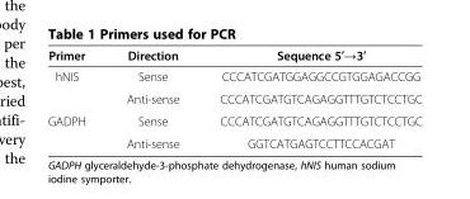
<table><thead><tr><td>Primer</td><td>Direction</td><td>Sequence 5′→3′</td></tr></thead><tbody><tr><td rowspan="2">hNIS</td><td>Sense</td><td>CCCATCGATGGAGGCCGTGGAGACCGG</td></tr><tr><td>Anti-sense</td><td>CCCATCGATGTCAGAGGTTTGTCTCCTGC</td></tr><tr><td rowspan="2">GADPH</td><td>Sense</td><td>CCCATCGATGTCAGAGGTTTGTCTCCTGC</td></tr><tr><td>Anti-sense</td><td>GGTCATGAGTCCTTCCACGAT</td></tr></tbody></table>